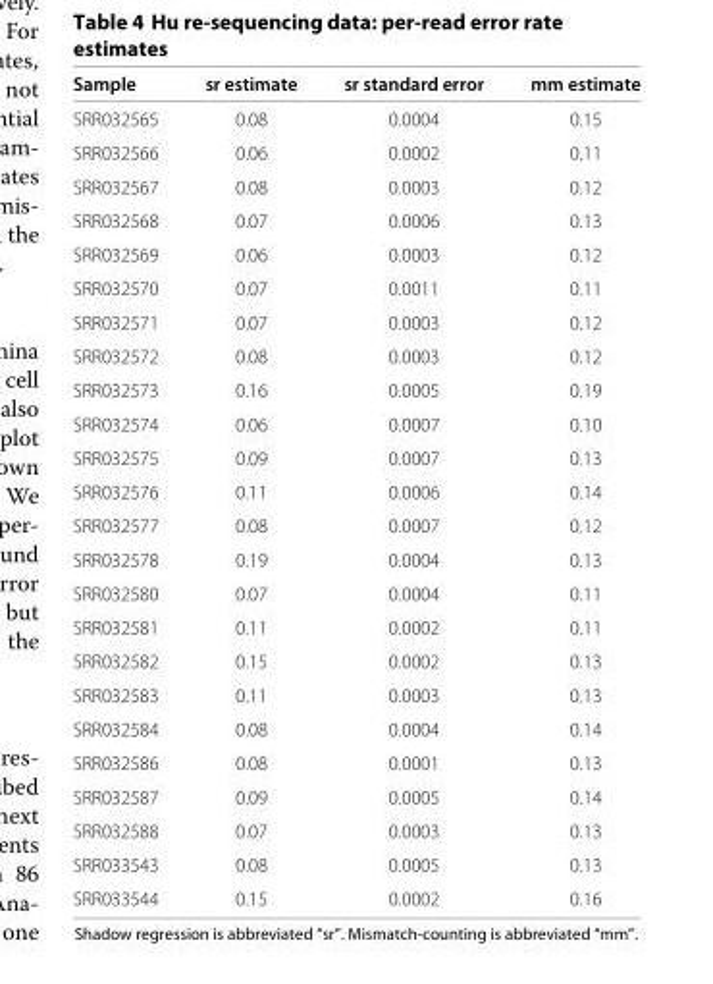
<table><thead><tr><td>Sample</td><td>sr estimate</td><td>sr standard error</td><td>mm estimate</td></tr></thead><tbody><tr><td>SRR032565</td><td>0.08</td><td>0.0004</td><td>0.15</td></tr><tr><td>SRR032566</td><td>0.06</td><td>0.0002</td><td>0.11</td></tr><tr><td>SRR032567</td><td>0.08</td><td>0.0003</td><td>0.12</td></tr><tr><td>SRR032568</td><td>0.07</td><td>0.0006</td><td>0.13</td></tr><tr><td>SRR032569</td><td>0.06</td><td>0.0003</td><td>0.12</td></tr><tr><td>SRR032570</td><td>0.07</td><td>0.0011</td><td>0.11</td></tr><tr><td>SRR032571</td><td>0.07</td><td>0.0003</td><td>0.12</td></tr><tr><td>SRR032572</td><td>0.08</td><td>0.0003</td><td>0.12</td></tr><tr><td>SRR032573</td><td>0.16</td><td>0.0005</td><td>0.19</td></tr><tr><td>SRR032574</td><td>0.06</td><td>0.0007</td><td>0.10</td></tr><tr><td>SRR032575</td><td>0.09</td><td>0.0007</td><td>0.13</td></tr><tr><td>SRR032576</td><td>0.11</td><td>0.0006</td><td>0.14</td></tr><tr><td>SRR032577</td><td>0.08</td><td>0.0007</td><td>0.12</td></tr><tr><td>SRR032578</td><td>0.19</td><td>0.0004</td><td>0.13</td></tr><tr><td>SRR032580</td><td>0.07</td><td>0.0004</td><td>0.11</td></tr><tr><td>SRR032581</td><td>0.11</td><td>0.0002</td><td>0.11</td></tr><tr><td>SRR032582</td><td>0.15</td><td>0.0002</td><td>0.13</td></tr><tr><td>SRR032583</td><td>0.11</td><td>0.0003</td><td>0.13</td></tr><tr><td>SRR032584</td><td>0.08</td><td>0.0004</td><td>0.14</td></tr><tr><td>SRR032586</td><td>0.08</td><td>0.0001</td><td>0.13</td></tr><tr><td>SRR032587</td><td>0.09</td><td>0.0005</td><td>0.14</td></tr><tr><td>SRR032588</td><td>0.07</td><td>0.0003</td><td>0.13</td></tr><tr><td>SRR033543</td><td>0.08</td><td>0.0005</td><td>0.13</td></tr><tr><td>SRR033544</td><td>0.15</td><td>0.0002</td><td>0.16</td></tr></tbody></table>